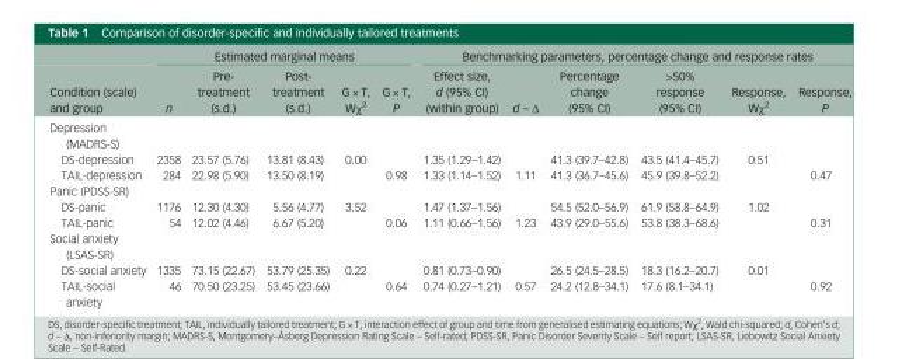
<table><thead><tr><td rowspan="2">Condition (scale) and group</td><td colspan="5">Estimated marginal means</td><td colspan="6">Benchmarking parameters, percentage change and response rates</td></tr><tr><td>n</td><td>Pre- treatment (s.d.)</td><td>Post- treatment (s.d.)</td><td>G × T, Wχ<sup>2</sup></td><td>G × T, P</td><td>Effect size, d (95% CI) (within group)</td><td>d – Δ</td><td>Percentage change (95% CI)</td><td>&gt;50% response (95% CI)</td><td>Response, Wχ<sup>2</sup></td><td>Response, P</td></tr></thead><tbody><tr><td colspan="12">Depression (MADRS-S)</td></tr><tr><td>DS-depression</td><td>2358</td><td>23.57 (5.76)</td><td>13.81 (8.43)</td><td>0.00</td><td></td><td>1.35 (1.29–1.42)</td><td></td><td>41.3 (39.7–42.8)</td><td>43.5 (41.4–45.7)</td><td>0.51</td><td></td></tr><tr><td>TAIL-depression</td><td>284</td><td>22.98 (5.90)</td><td>13.50 (8.19)</td><td></td><td>0.98</td><td>1.33 (1.14–1.52)</td><td>1.11</td><td>41.3 (36.7–45.6)</td><td>45.9 (39.8–52.2)</td><td></td><td>0.47</td></tr><tr><td colspan="12">Panic (PDSS-SR)</td></tr><tr><td>DS-panic</td><td>1176</td><td>12.30 (4.30)</td><td>5.56 (4.77)</td><td>3.52</td><td></td><td>1.47 (1.37–1.56)</td><td></td><td>54.5 (52.0–56.9)</td><td>61.9 (58.8–64.9)</td><td>1.02</td><td></td></tr><tr><td>TAIL-panic</td><td>54</td><td>12.02 (4.46)</td><td>6.67 (5.20)</td><td></td><td>0.06</td><td>1.11 (0.66–1.56)</td><td>1.23</td><td>43.9 (29.0–55.6)</td><td>53.8 (38.3–68.6)</td><td></td><td>0.31</td></tr><tr><td colspan="12">Social anxiety (LSAS-SR)</td></tr><tr><td>DS-social anxiety</td><td>1335</td><td>73.15 (22.67)</td><td>53.79 (25.35)</td><td>0.22</td><td></td><td>0.81 (0.73–0.90)</td><td></td><td>26.5 (24.5–28.5)</td><td>18.3 (16.2–20.7)</td><td>0.01</td><td></td></tr><tr><td>TAIL-social anxiety</td><td>46</td><td>70.50 (23.25)</td><td>53.45 (23.66)</td><td></td><td>0.64</td><td>0.74 (0.27–1.21)</td><td>0.57</td><td>24.2 (12.8–34.1)</td><td>17.6 (8.1–34.1)</td><td></td><td>0.92</td></tr></tbody></table>